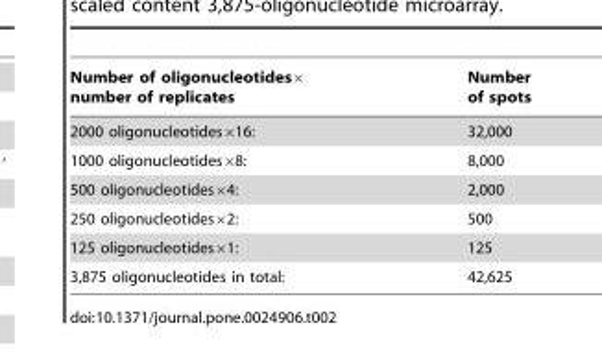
<table><thead><tr><td>Number of oligonucleotides× number of replicates</td><td>Number of spots</td></tr></thead><tbody><tr><td>2000 oligonucleotides×16:</td><td>32,000</td></tr><tr><td>1000 oligonucleotides×8:</td><td>8,000</td></tr><tr><td>500 oligonucleotides×4:</td><td>2,000</td></tr><tr><td>250 oligonucleotides×2:</td><td>500</td></tr><tr><td>125 oligonucleotides×1:</td><td>125</td></tr><tr><td>3,875 oligonucleotides in total:</td><td>42,625</td></tr></tbody></table>